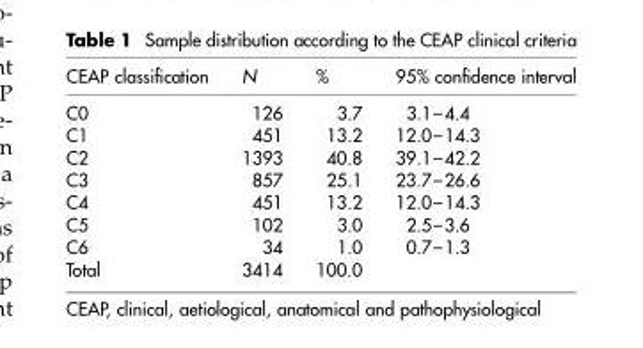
<table><thead><tr><td>CEAP classification</td><td>N</td><td>%</td><td>95% confidence interval</td></tr></thead><tbody><tr><td>C0</td><td>126</td><td>3.7</td><td>3.1–4.4</td></tr><tr><td>C1</td><td>451</td><td>13.2</td><td>12.0–14.3</td></tr><tr><td>C2</td><td>1393</td><td>40.8</td><td>39.1–42.2</td></tr><tr><td>C3</td><td>857</td><td>25.1</td><td>23.7–26.6</td></tr><tr><td>C4</td><td>451</td><td>13.2</td><td>12.0–14.3</td></tr><tr><td>C5</td><td>102</td><td>3.0</td><td>2.5–3.6</td></tr><tr><td>C6</td><td>34</td><td>1.0</td><td>0.7–1.3</td></tr><tr><td>Total</td><td>3414</td><td>100.0</td><td></td></tr></tbody></table>